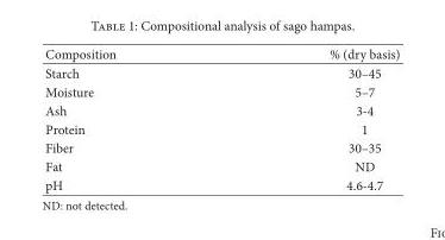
<table><thead><tr><td>Composition</td><td>% (dry basis)</td></tr></thead><tbody><tr><td>Starch</td><td>30–45</td></tr><tr><td>Moisture</td><td>5–7</td></tr><tr><td>Ash</td><td>3-4</td></tr><tr><td>Protein</td><td>1</td></tr><tr><td>Fiber</td><td>30–35</td></tr><tr><td>Fat</td><td>ND</td></tr><tr><td>pH</td><td>4.6-4.7</td></tr></tbody></table>